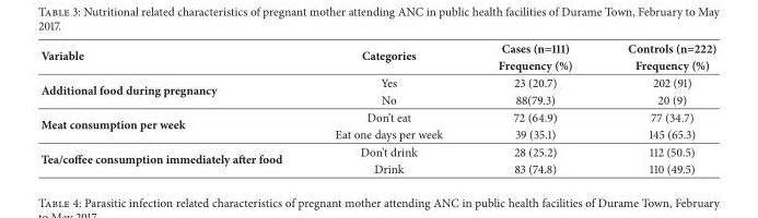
<table><thead><tr><td rowspan="2">Variable</td><td rowspan="2">Categories</td><td rowspan="2">Cases (n=111) Frequency (%)</td><td rowspan="2">Controls (n=222) Frequency (%)</td></tr><tr></tr></thead><tbody><tr><td rowspan="2">Additional food during pregnancy</td><td>Yes</td><td>23 (20.7)</td><td>202 (91)</td></tr><tr><td>No</td><td>88(79.3)</td><td>20 (9)</td></tr><tr><td rowspan="2">Meat consumption per week</td><td>Don’t eat</td><td>72 (64.9)</td><td>77 (34.7)</td></tr><tr><td>Eat one days per week</td><td>39 (35.1)</td><td>145 (65.3)</td></tr><tr><td rowspan="2">Tea/coffee consumption immediately afer food</td><td>Don’t drink</td><td>28 (25.2)</td><td>112 (50.5)</td></tr><tr><td>Drink</td><td>83 (74.8)</td><td>110 (49.5)</td></tr></tbody></table>